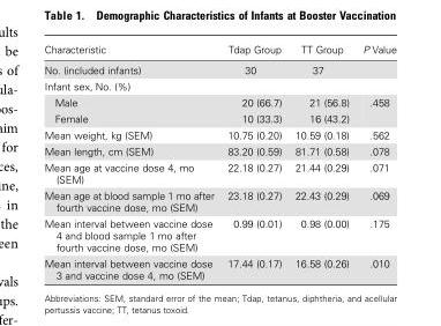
<table><thead><tr><td>Characteristic</td><td>Tdap Group</td><td>TT Group</td><td>P Value</td></tr></thead><tbody><tr><td>No. (included infants)</td><td>30</td><td>37</td><td></td></tr><tr><td colspan="4">Infant sex, No. (%)</td></tr><tr><td>Male</td><td>20 (66.7)</td><td>21 (56.8)</td><td rowspan="2">.458</td></tr><tr><td>Female</td><td>10 (33.3)</td><td>16 (43.2)</td></tr><tr><td>Mean weight, kg (SEM)</td><td>10.75 (0.20)</td><td>10.59 (0.18)</td><td>.562</td></tr><tr><td>Mean length, cm (SEM)</td><td>83.20 (0.59)</td><td>81.71 (0.58)</td><td>.078</td></tr><tr><td>Mean age at vaccine dose 4, mo (SEM)</td><td>22.18 (0.27)</td><td>21.44 (0.29)</td><td>.071</td></tr><tr><td>Mean age at blood sample 1 mo after fourth vaccine dose, mo (SEM)</td><td>23.18 (0.27)</td><td>22.43 (0.29)</td><td>.069</td></tr><tr><td>Mean interval between vaccine dose 4 and blood sample 1 mo after fourth vaccine dose, mo (SEM)</td><td>0.99 (0.01)</td><td>0.98 (0.00)</td><td>.175</td></tr><tr><td>Mean interval between vaccine dose 3 and vaccine dose 4, mo (SEM)</td><td>17.44 (0.17)</td><td>16.58 (0.26)</td><td>.010</td></tr></tbody></table>